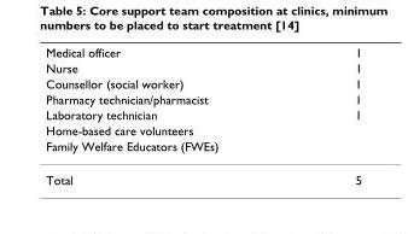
<table><thead><tr><td rowspan="7">Medical officer Nurse Counsellor (social worker) Pharmacy technician/pharmacist Laboratory technician Home-based care volunteers Family Welfare Educators (FWEs)</td><td rowspan="7">1 1 1 1 1</td></tr><tr></tr><tr></tr><tr></tr><tr></tr><tr></tr><tr></tr></thead><tbody><tr><td>Total</td><td>5</td></tr></tbody></table>